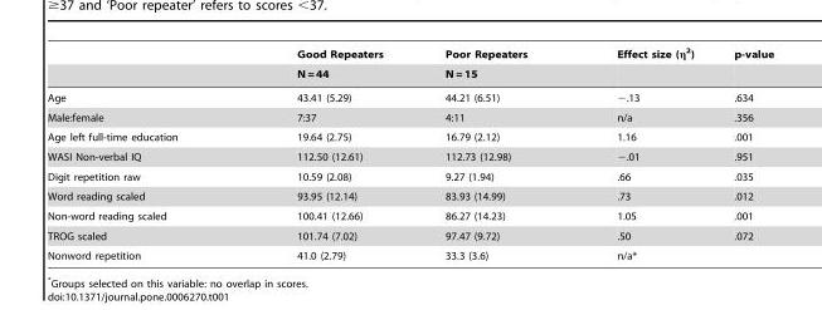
<table><thead><tr><td rowspan="2"></td><td rowspan="2">Good Repeaters N = 44</td><td rowspan="2">Poor Repeaters N = 15</td><td rowspan="2">Effect size (η<sup>2</sup>)</td><td rowspan="2">p-value</td></tr><tr></tr></thead><tbody><tr><td>Age</td><td>43.41 (5.29)</td><td>44.21 (6.51)</td><td>−.13</td><td>.634</td></tr><tr><td>Male:female</td><td>7:37</td><td>4:11</td><td>n/a</td><td>.356</td></tr><tr><td>Age left full-time education</td><td>19.64 (2.75)</td><td>16.79 (2.12)</td><td>1.16</td><td>.001</td></tr><tr><td>WASI Non-verbal IQ</td><td>112.50 (12.61)</td><td>112.73 (12.98)</td><td>−.01</td><td>.951</td></tr><tr><td>Digit repetition raw</td><td>10.59 (2.08)</td><td>9.27 (1.94)</td><td>.66</td><td>.035</td></tr><tr><td>Word reading scaled</td><td>93.95 (12.14)</td><td>83.93 (14.99)</td><td>.73</td><td>.012</td></tr><tr><td>Non-word reading scaled</td><td>100.41 (12.66)</td><td>86.27 (14.23)</td><td>1.05</td><td>.001</td></tr><tr><td>TROG scaled</td><td>101.74 (7.02)</td><td>97.47 (9.72)</td><td>.50</td><td>.072</td></tr><tr><td>Nonword repetition</td><td>41.0 (2.79)</td><td>33.3 (3.6)</td><td>n/a*</td><td></td></tr></tbody></table>